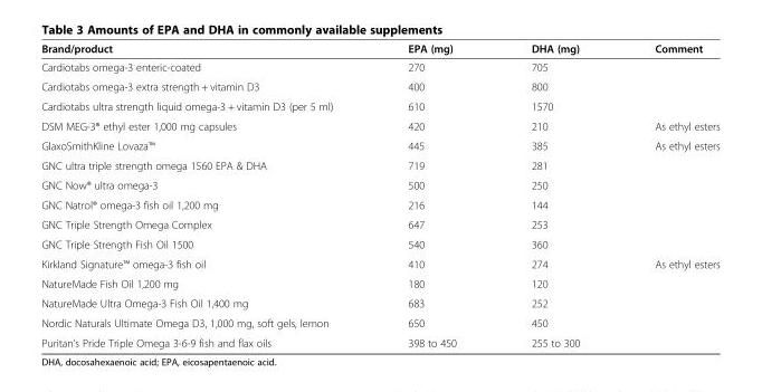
<table><thead><tr><td>Brand/product</td><td>EPA (mg)</td><td>DHA (mg)</td><td>Comment</td></tr></thead><tbody><tr><td>Cardiotabs omega-3 enteric-coated</td><td>270</td><td>705</td><td></td></tr><tr><td>Cardiotabs omega-3 extra strength + vitamin D3</td><td>400</td><td>800</td><td></td></tr><tr><td>Cardiotabs ultra strength liquid omega-3 + vitamin D3 (per 5 ml)</td><td>610</td><td>1570</td><td></td></tr><tr><td>DSM MEG-3® ethyl ester 1,000 mg capsules</td><td>420</td><td>210</td><td>As ethyl esters</td></tr><tr><td>GlaxoSmithKline Lovaza™</td><td>445</td><td>385</td><td>As ethyl esters</td></tr><tr><td>GNC ultra triple strength omega 1560 EPA &amp; DHA</td><td>719</td><td>281</td><td></td></tr><tr><td>GNC Now® ultra omega-3</td><td>500</td><td>250</td><td></td></tr><tr><td>GNC Natrol® omega-3 fish oil 1,200 mg</td><td>216</td><td>144</td><td></td></tr><tr><td>GNC Triple Strength Omega Complex</td><td>647</td><td>253</td><td></td></tr><tr><td>GNC Triple Strength Fish Oil 1500</td><td>540</td><td>360</td><td></td></tr><tr><td>Kirkland Signature™ omega-3 fish oil</td><td>410</td><td>274</td><td>As ethyl esters</td></tr><tr><td>NatureMade Fish Oil 1,200 mg</td><td>180</td><td>120</td><td></td></tr><tr><td>NatureMade Ultra Omega-3 Fish Oil 1,400 mg</td><td>683</td><td>252</td><td></td></tr><tr><td>Nordic Naturals Ultimate Omega D3, 1,000 mg, soft gels, lemon</td><td>650</td><td>450</td><td></td></tr><tr><td>Puritan’s Pride Triple Omega 3-6-9 fish and flax oils</td><td>398 to 450</td><td>255 to 300</td><td></td></tr></tbody></table>